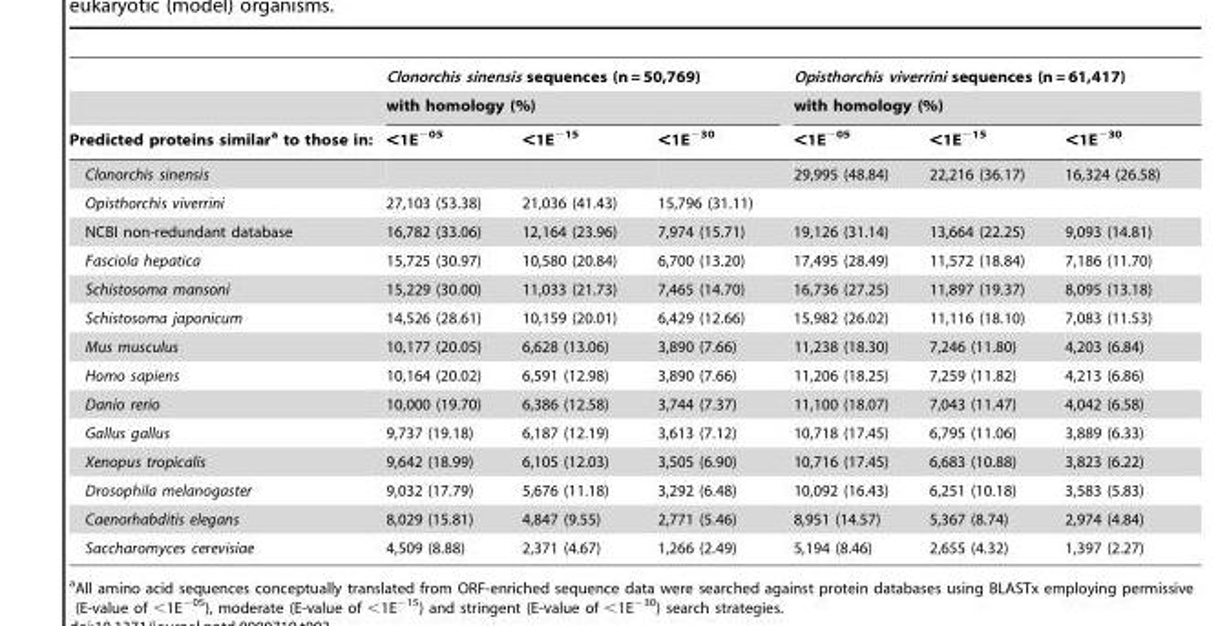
<table><thead><tr><td rowspan="3">Predicted proteins similar<sup>a</sup> to those in:</td><td rowspan="2" colspan="3">Clonorchis sinensis sequences (n = 50,769) with homology (%)</td><td rowspan="2" colspan="3">Opisthorchis viverrini sequences (n = 61,417) with homology (%)</td></tr><tr></tr><tr><td>&lt;1E<sup>−05</sup></td><td>&lt;1E<sup>−15</sup></td><td>&lt;1E<sup>−30</sup></td><td>&lt;1E<sup>−05</sup></td><td>&lt;1E<sup>−15</sup></td><td>&lt;1E<sup>−30</sup></td></tr></thead><tbody><tr><td>Clonorchis sinensis</td><td></td><td></td><td></td><td>29,995 (48.84)</td><td>22,216 (36.17)</td><td>16,324 (26.58)</td></tr><tr><td>Opisthorchis viverrini</td><td>27,103 (53.38)</td><td>21,036 (41.43)</td><td>15,796 (31.11)</td><td></td><td></td><td></td></tr><tr><td>NCBI non-redundant database</td><td>16,782 (33.06)</td><td>12,164 (23.96)</td><td>7,974 (15.71)</td><td>19,126 (31.14)</td><td>13,664 (22.25)</td><td>9,093 (14.81)</td></tr><tr><td>Fasciola hepatica</td><td>15,725 (30.97)</td><td>10,580 (20.84)</td><td>6,700 (13.20)</td><td>17,495 (28.49)</td><td>11,572 (18.84)</td><td>7,186 (11.70)</td></tr><tr><td>Schistosoma mansoni</td><td>15,229 (30.00)</td><td>11,033 (21.73)</td><td>7,465 (14.70)</td><td>16,736 (27.25)</td><td>11,897 (19.37)</td><td>8,095 (13.18)</td></tr><tr><td>Schistosoma japonicum</td><td>14,526 (28.61)</td><td>10,159 (20.01)</td><td>6,429 (12.66)</td><td>15,982 (26.02)</td><td>11,116 (18.10)</td><td>7,083 (11.53)</td></tr><tr><td>Mus musculus</td><td>10,177 (20.05)</td><td>6,628 (13.06)</td><td>3,890 (7.66)</td><td>11,238 (18.30)</td><td>7,246 (11.80)</td><td>4,203 (6.84)</td></tr><tr><td>Homo sapiens</td><td>10,164 (20.02)</td><td>6,591 (12.98)</td><td>3,890 (7.66)</td><td>11,206 (18.25)</td><td>7,259 (11.82)</td><td>4,213 (6.86)</td></tr><tr><td>Danio rerio</td><td>10,000 (19.70)</td><td>6,386 (12.58)</td><td>3,744 (7.37)</td><td>11,100 (18.07)</td><td>7,043 (11.47)</td><td>4,042 (6.58)</td></tr><tr><td>Gallus gallus</td><td>9,737 (19.18)</td><td>6,187 (12.19)</td><td>3,613 (7.12)</td><td>10,718 (17.45)</td><td>6,795 (11.06)</td><td>3,889 (6.33)</td></tr><tr><td>Xenopus tropicalis</td><td>9,642 (18.99)</td><td>6,105 (12.03)</td><td>3,505 (6.90)</td><td>10,716 (17.45)</td><td>6,683 (10.88)</td><td>3,823 (6.22)</td></tr><tr><td>Drosophila melanogaster</td><td>9,032 (17.79)</td><td>5,676 (11.18)</td><td>3,292 (6.48)</td><td>10,092 (16.43)</td><td>6,251 (10.18)</td><td>3,583 (5.83)</td></tr><tr><td>Caenorhabditis elegans</td><td>8,029 (15.81)</td><td>4,847 (9.55)</td><td>2,771 (5.46)</td><td>8,951 (14.57)</td><td>5,367 (8.74)</td><td>2,974 (4.84)</td></tr><tr><td>Saccharomyces cerevisiae</td><td>4,509 (8.88)</td><td>2,371 (4.67)</td><td>1,266 (2.49)</td><td>5,194 (8.46)</td><td>2,655 (4.32)</td><td>1,397 (2.27)</td></tr></tbody></table>